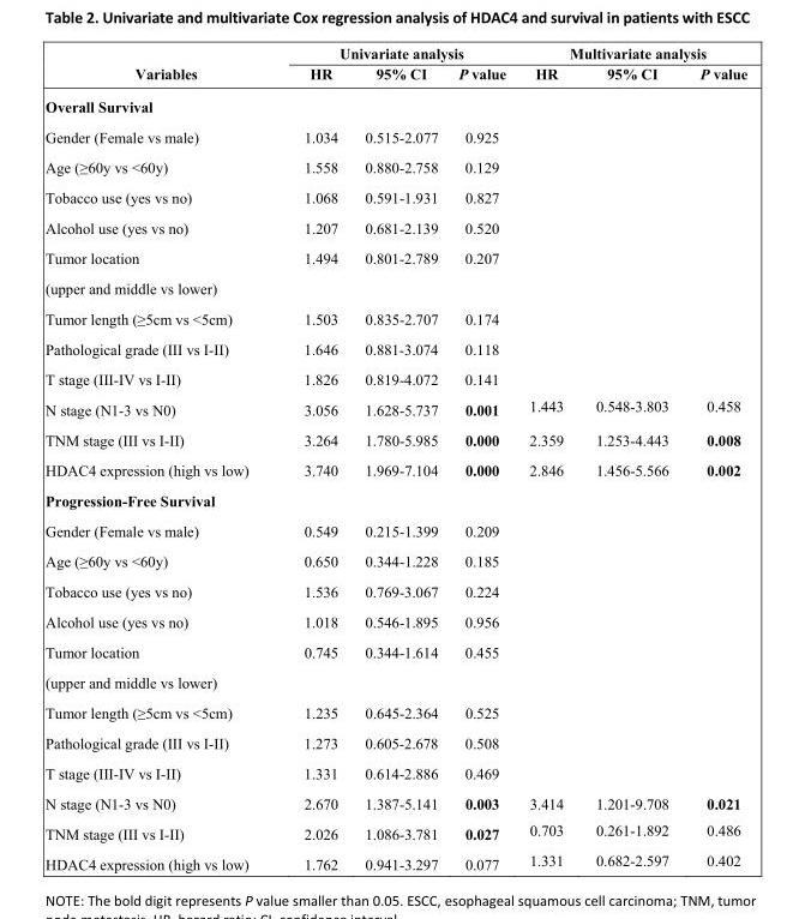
<table><thead><tr><td rowspan="2">Variables</td><td colspan="3">Univariate analysis</td><td colspan="3">Multivariate analysis</td></tr><tr><td>HR</td><td>95% CI</td><td>P value</td><td>HR</td><td>95% CI</td><td>P value</td></tr></thead><tbody><tr><td colspan="7">Overall Survival</td></tr><tr><td>Gender (Female vs male)</td><td>1.034</td><td>0.515-2.077</td><td>0.925</td><td></td><td></td><td></td></tr><tr><td>Age (≥60y vs &lt;60y)</td><td>1.558</td><td>0.880-2.758</td><td>0.129</td><td></td><td></td><td></td></tr><tr><td>Tobacco use (yes vs no)</td><td>1.068</td><td>0.591-1.931</td><td>0.827</td><td></td><td></td><td></td></tr><tr><td>Alcohol use (yes vs no)</td><td>1.207</td><td>0.681-2.139</td><td>0.520</td><td></td><td></td><td></td></tr><tr><td>Tumor location (upper and middle vs lower)</td><td>1.494</td><td>0.801-2.789</td><td>0.207</td><td></td><td></td><td></td></tr><tr><td>Tumor length (≥5cm vs &lt;5cm)</td><td>1.503</td><td>0.835-2.707</td><td>0.174</td><td></td><td></td><td></td></tr><tr><td>Pathological grade (III vs I-II)</td><td>1.646</td><td>0.881-3.074</td><td>0.118</td><td></td><td></td><td></td></tr><tr><td>T stage (III-IV vs I-II)</td><td>1.826</td><td>0.819-4.072</td><td>0.141</td><td></td><td></td><td></td></tr><tr><td>N stage (N1-3 vs N0)</td><td>3.056</td><td>1.628-5.737</td><td>0.001</td><td>1.443</td><td>0.548-3.803</td><td>0.458</td></tr><tr><td>TNM stage (III vs I-II)</td><td>3.264</td><td>1.780-5.985</td><td>0.000</td><td>2.359</td><td>1.253-4.443</td><td>0.008</td></tr><tr><td>HDAC4 expression (high vs low)</td><td>3.740</td><td>1.969-7.104</td><td>0.000</td><td>2.846</td><td>1.456-5.566</td><td>0.002</td></tr><tr><td colspan="7">Progression-Free Survival</td></tr><tr><td>Gender (Female vs male)</td><td>0.549</td><td>0.215-1.399</td><td>0.209</td><td></td><td></td><td></td></tr><tr><td>Age (≥60y vs &lt;60y)</td><td>0.650</td><td>0.344-1.228</td><td>0.185</td><td></td><td></td><td></td></tr><tr><td>Tobacco use (yes vs no)</td><td>1.536</td><td>0.769-3.067</td><td>0.224</td><td></td><td></td><td></td></tr><tr><td>Alcohol use (yes vs no)</td><td>1.018</td><td>0.546-1.895</td><td>0.956</td><td></td><td></td><td></td></tr><tr><td>Tumor location (upper and middle vs lower)</td><td>0.745</td><td>0.344-1.614</td><td>0.455</td><td></td><td></td><td></td></tr><tr><td>Tumor length (≥5cm vs &lt;5cm)</td><td>1.235</td><td>0.645-2.364</td><td>0.525</td><td></td><td></td><td></td></tr><tr><td>Pathological grade (III vs I-II)</td><td>1.273</td><td>0.605-2.678</td><td>0.508</td><td></td><td></td><td></td></tr><tr><td>T stage (III-IV vs I-II)</td><td>1.331</td><td>0.614-2.886</td><td>0.469</td><td></td><td></td><td></td></tr><tr><td>N stage (N1-3 vs N0)</td><td>2.670</td><td>1.387-5.141</td><td>0.003</td><td>3.414</td><td>1.201-9.708</td><td>0.021</td></tr><tr><td>TNM stage (III vs I-II)</td><td>2.026</td><td>1.086-3.781</td><td>0.027</td><td>0.703</td><td>0.261-1.892</td><td>0.486</td></tr><tr><td>HDAC4 expression (high vs low)</td><td>1.762</td><td>0.941-3.297</td><td>0.077</td><td>1.331</td><td>0.682-2.597</td><td>0.402</td></tr></tbody></table>